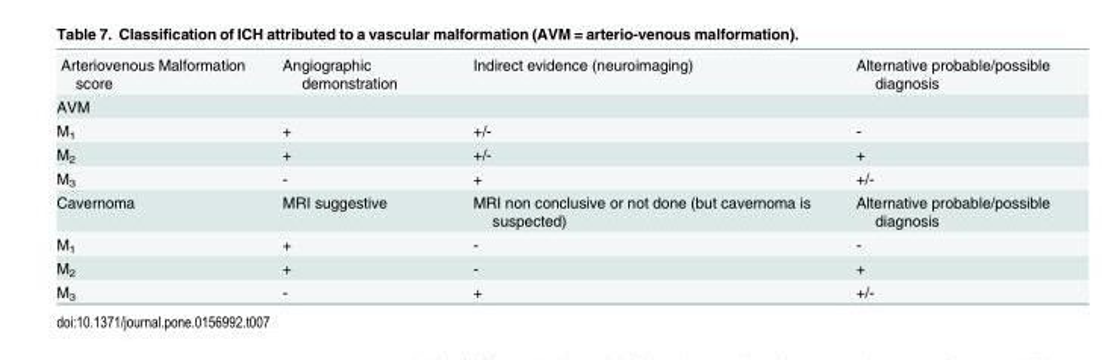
<table><tbody><tr><td>Arteriovenous Malformation score</td><td>Angiographic demonstration</td><td>Indirect evidence (neuroimaging)</td><td>Alternative probable/possible diagnosis</td></tr><tr><td colspan="4">AVM</td></tr><tr><td>M<sub>1</sub></td><td>+</td><td>+/-</td><td>-</td></tr><tr><td>M<sub>2</sub></td><td>+</td><td>+/-</td><td>+</td></tr><tr><td>M<sub>3</sub></td><td>-</td><td>+</td><td>+/-</td></tr><tr><td>Cavernoma</td><td>MRI suggestive</td><td>MRI non conclusive or not done (but cavernoma is suspected)</td><td>Alternative probable/possible diagnosis</td></tr><tr><td>M<sub>1</sub></td><td>+</td><td>-</td><td>-</td></tr><tr><td>M<sub>2</sub></td><td>+</td><td>-</td><td>+</td></tr><tr><td>M<sub>3</sub></td><td>-</td><td>+</td><td>+/-</td></tr></tbody></table>